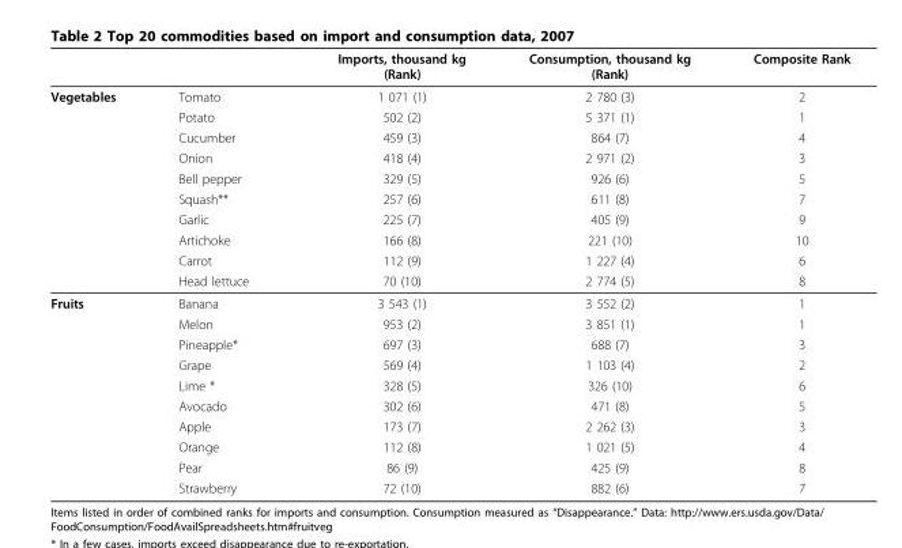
<table><thead><tr><td></td><td></td><td>Imports, thousand kg (Rank)</td><td>Consumption, thousand kg (Rank)</td><td>Composite Rank</td></tr></thead><tbody><tr><td rowspan="10">Vegetables</td><td>Tomato</td><td>1 071 (1)</td><td>2 780 (3)</td><td>2</td></tr><tr><td>Potato</td><td>502 (2)</td><td>5 371 (1)</td><td>1</td></tr><tr><td>Cucumber</td><td>459 (3)</td><td>864 (7)</td><td>4</td></tr><tr><td>Onion</td><td>418 (4)</td><td>2 971 (2)</td><td>3</td></tr><tr><td>Bell pepper</td><td>329 (5)</td><td>926 (6)</td><td>5</td></tr><tr><td>Squash**</td><td>257 (6)</td><td>611 (8)</td><td>7</td></tr><tr><td>Garlic</td><td>225 (7)</td><td>405 (9)</td><td>9</td></tr><tr><td>Artichoke</td><td>166 (8)</td><td>221 (10)</td><td>10</td></tr><tr><td>Carrot</td><td>112 (9)</td><td>1 227 (4)</td><td>6</td></tr><tr><td>Head lettuce</td><td>70 (10)</td><td>2 774 (5)</td><td>8</td></tr><tr><td rowspan="10">Fruits</td><td>Banana</td><td>3 543 (1)</td><td>3 552 (2)</td><td>1</td></tr><tr><td>Melon</td><td>953 (2)</td><td>3 851 (1)</td><td>1</td></tr><tr><td>Pineapple*</td><td>697 (3)</td><td>688 (7)</td><td>3</td></tr><tr><td>Grape</td><td>569 (4)</td><td>1 103 (4)</td><td>2</td></tr><tr><td>Lime *</td><td>328 (5)</td><td>326 (10)</td><td>6</td></tr><tr><td>Avocado</td><td>302 (6)</td><td>471 (8)</td><td>5</td></tr><tr><td>Apple</td><td>173 (7)</td><td>2 262 (3)</td><td>3</td></tr><tr><td>Orange</td><td>112 (8)</td><td>1 021 (5)</td><td>4</td></tr><tr><td>Pear</td><td>86 (9)</td><td>425 (9)</td><td>8</td></tr><tr><td>Strawberry</td><td>72 (10)</td><td>882 (6)</td><td>7</td></tr></tbody></table>